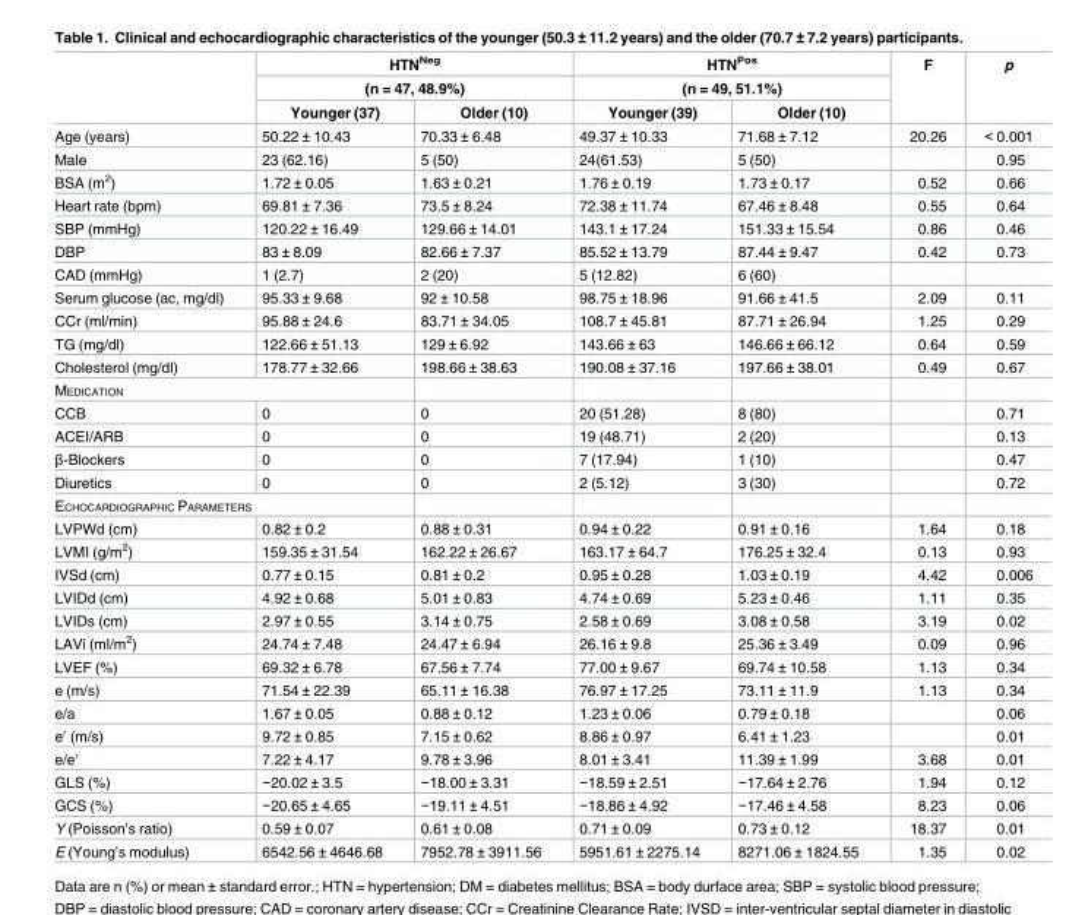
<table><thead><tr><td rowspan="3"></td><td rowspan="2" colspan="2">HTN<sup>Neg</sup> (n = 47, 48.9%)</td><td rowspan="2" colspan="2">HTN<sup>Pos</sup> (n = 49, 51.1%)</td><td rowspan="3">F</td><td rowspan="3">p</td></tr><tr></tr><tr><td>Younger (37)</td><td>Older (10)</td><td>Younger (39)</td><td>Older (10)</td></tr></thead><tbody><tr><td>Age (years)</td><td>50.22 ± 10.43</td><td>70.33 ± 6.48</td><td>49.37 ± 10.33</td><td>71.68 ± 7.12</td><td>20.26</td><td>&lt; 0.001</td></tr><tr><td>Male</td><td>23 (62.16)</td><td>5 (50)</td><td>24(61.53)</td><td>5 (50)</td><td></td><td>0.95</td></tr><tr><td>BSA (m<sup>2</sup>)</td><td>1.72 ± 0.05</td><td>1.63 ± 0.21</td><td>1.76 ± 0.19</td><td>1.73 ± 0.17</td><td>0.52</td><td>0.66</td></tr><tr><td>Heart rate (bpm)</td><td>69.81 ± 7.36</td><td>73.5 ± 8.24</td><td>72.38 ± 11.74</td><td>67.46 ± 8.48</td><td>0.55</td><td>0.64</td></tr><tr><td>SBP (mmHg)</td><td>120.22 ± 16.49</td><td>129.66 ± 14.01</td><td>143.1 ± 17.24</td><td>151.33 ± 15.54</td><td>0.86</td><td>0.46</td></tr><tr><td>DBP</td><td>83 ± 8.09</td><td>82.66 ± 7.37</td><td>85.52 ± 13.79</td><td>87.44 ± 9.47</td><td>0.42</td><td>0.73</td></tr><tr><td>CAD (mmHg)</td><td>1 (2.7)</td><td>2 (20)</td><td>5 (12.82)</td><td>6 (60)</td><td></td><td></td></tr><tr><td>Serum glucose (ac, mg/dl)</td><td>95.33 ± 9.68</td><td>92 ± 10.58</td><td>98.75 ± 18.96</td><td>91.66 ± 41.5</td><td>2.09</td><td>0.11</td></tr><tr><td>CCr (ml/min)</td><td>95.88 ± 24.6</td><td>83.71 ± 34.05</td><td>108.7 ± 45.81</td><td>87.71 ± 26.94</td><td>1.25</td><td>0.29</td></tr><tr><td>TG (mg/dl)</td><td>122.66 ± 51.13</td><td>129 ± 6.92</td><td>143.66 ± 63</td><td>146.66 ± 66.12</td><td>0.64</td><td>0.59</td></tr><tr><td>Cholesterol (mg/dl)</td><td>178.77 ± 32.66</td><td>198.66 ± 38.63</td><td>190.08 ± 37.16</td><td>197.66 ± 38.01</td><td>0.49</td><td>0.67</td></tr><tr><td colspan="7">MEDICATION</td></tr><tr><td>CCB</td><td>0</td><td>0</td><td>20 (51.28)</td><td>8 (80)</td><td></td><td>0.71</td></tr><tr><td>ACEI/ARB</td><td>0</td><td>0</td><td>19 (48.71)</td><td>2 (20)</td><td></td><td>0.13</td></tr><tr><td>β-Blockers</td><td>0</td><td>0</td><td>7 (17.94)</td><td>1 (10)</td><td></td><td>0.47</td></tr><tr><td>Diuretics</td><td>0</td><td>0</td><td>2 (5.12)</td><td>3 (30)</td><td></td><td>0.72</td></tr><tr><td colspan="7">ECHOCARDIOGRAPHIC PARAMETERS</td></tr><tr><td>LVPWd (cm)</td><td>0.82 ± 0.2</td><td>0.88 ± 0.31</td><td>0.94 ± 0.22</td><td>0.91 ± 0.16</td><td>1.64</td><td>0.18</td></tr><tr><td>LVMI (g/m<sup>2</sup>)</td><td>159.35 ± 31.54</td><td>162.22 ± 26.67</td><td>163.17 ± 64.7</td><td>176.25 ± 32.4</td><td>0.13</td><td>0.93</td></tr><tr><td>IVSd (cm)</td><td>0.77 ± 0.15</td><td>0.81 ± 0.2</td><td>0.95 ± 0.28</td><td>1.03 ± 0.19</td><td>4.42</td><td>0.006</td></tr><tr><td>LVIDd (cm)</td><td>4.92 ± 0.68</td><td>5.01 ± 0.83</td><td>4.74 ± 0.69</td><td>5.23 ± 0.46</td><td>1.11</td><td>0.35</td></tr><tr><td>LVIDs (cm)</td><td>2.97 ± 0.55</td><td>3.14 ± 0.75</td><td>2.58 ± 0.69</td><td>3.08 ± 0.58</td><td>3.19</td><td>0.02</td></tr><tr><td>LAVi (ml/m<sup>2</sup>)</td><td>24.74 ± 7.48</td><td>24.47 ± 6.94</td><td>26.16 ± 9.8</td><td>25.36 ± 3.49</td><td>0.09</td><td>0.96</td></tr><tr><td>LVEF (%)</td><td>69.32 ± 6.78</td><td>67.56 ± 7.74</td><td>77.00 ± 9.67</td><td>69.74 ± 10.58</td><td>1.13</td><td>0.34</td></tr><tr><td>e (m/s)</td><td>71.54 ± 22.39</td><td>65.11 ± 16.38</td><td>76.97 ± 17.25</td><td>73.11 ± 11.9</td><td>1.13</td><td>0.34</td></tr><tr><td>e/a</td><td>1.67 ± 0.05</td><td>0.88 ± 0.12</td><td>1.23 ± 0.06</td><td>0.79 ± 0.18</td><td></td><td>0.06</td></tr><tr><td>e′ (m/s)</td><td>9.72 ± 0.85</td><td>7.15 ± 0.62</td><td>8.86 ± 0.97</td><td>6.41 ± 1.23</td><td></td><td>0.01</td></tr><tr><td>e/e′</td><td>7.22 ± 4.17</td><td>9.78 ± 3.96</td><td>8.01 ± 3.41</td><td>11.39 ± 1.99</td><td>3.68</td><td>0.01</td></tr><tr><td>GLS (%)</td><td>−20.02 ± 3.5</td><td>−18.00 ± 3.31</td><td>−18.59 ± 2.51</td><td>−17.64 ± 2.76</td><td>1.94</td><td>0.12</td></tr><tr><td>GCS (%)</td><td>−20.65 ± 4.65</td><td>−19.11 ± 4.51</td><td>−18.86 ± 4.92</td><td>−17.46 ± 4.58</td><td>8.23</td><td>0.06</td></tr><tr><td>Y (Poisson’s ratio)</td><td>0.59 ± 0.07</td><td>0.61 ± 0.08</td><td>0.71 ± 0.09</td><td>0.73 ± 0.12</td><td>18.37</td><td>0.01</td></tr><tr><td>E (Young’s modulus)</td><td>6542.56 ± 4646.68</td><td>7952.78 ± 3911.56</td><td>5951.61 ± 2275.14</td><td>8271.06 ± 1824.55</td><td>1.35</td><td>0.02</td></tr></tbody></table>